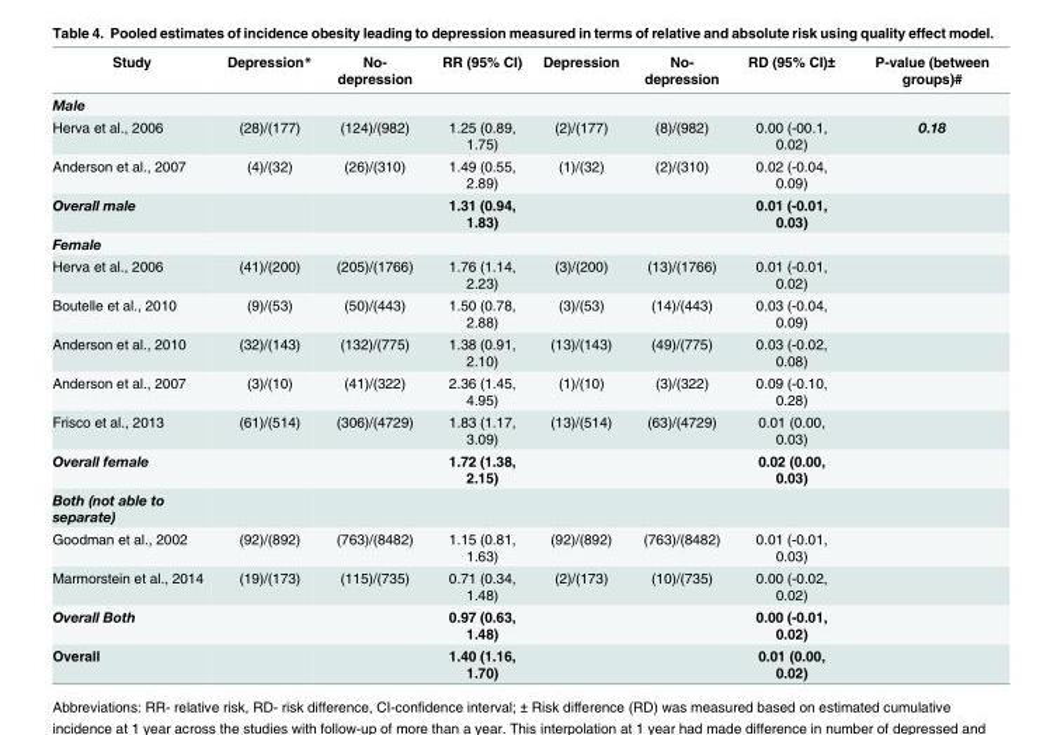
<table><thead><tr><td>Study</td><td>Depression*</td><td>No- depression</td><td>RR (95% CI)</td><td>Depression</td><td>No- depression</td><td>RD (95% CI)±</td><td>P-value (between groups)#</td></tr></thead><tbody><tr><td colspan="8">Male</td></tr><tr><td>Herva et al., 2006</td><td>(28)/(177)</td><td>(124)/(982)</td><td>1.25 (0.89, 1.75)</td><td>(2)/(177)</td><td>(8)/(982)</td><td>0.00 (-00.1, 0.02)</td><td>0.18</td></tr><tr><td>Anderson et al., 2007</td><td>(4)/(32)</td><td>(26)/(310)</td><td>1.49 (0.55, 2.89)</td><td>(1)/(32)</td><td>(2)/(310)</td><td>0.02 (-0.04, 0.09)</td><td></td></tr><tr><td>Overall male</td><td></td><td></td><td>1.31 (0.94, 1.83)</td><td></td><td></td><td>0.01 (-0.01, 0.03)</td><td></td></tr><tr><td colspan="8">Female</td></tr><tr><td>Herva et al., 2006</td><td>(41)/(200)</td><td>(205)/(1766)</td><td>1.76 (1.14, 2.23)</td><td>(3)/(200)</td><td>(13)/(1766)</td><td>0.01 (-0.01, 0.02)</td><td></td></tr><tr><td>Boutelle et al., 2010</td><td>(9)/(53)</td><td>(50)/(443)</td><td>1.50 (0.78, 2.88)</td><td>(3)/(53)</td><td>(14)/(443)</td><td>0.03 (-0.04, 0.09)</td><td></td></tr><tr><td>Anderson et al., 2010</td><td>(32)/(143)</td><td>(132)/(775)</td><td>1.38 (0.91, 2.10)</td><td>(13)/(143)</td><td>(49)/(775)</td><td>0.03 (-0.02, 0.08)</td><td></td></tr><tr><td>Anderson et al., 2007</td><td>(3)/(10)</td><td>(41)/(322)</td><td>2.36 (1.45, 4.95)</td><td>(1)/(10)</td><td>(3)/(322)</td><td>0.09 (-0.10, 0.28)</td><td></td></tr><tr><td>Frisco et al., 2013</td><td>(61)/(514)</td><td>(306)/(4729)</td><td>1.83 (1.17, 3.09)</td><td>(13)/(514)</td><td>(63)/(4729)</td><td>0.01 (0.00, 0.03)</td><td></td></tr><tr><td>Overall female</td><td></td><td></td><td>1.72 (1.38, 2.15)</td><td></td><td></td><td>0.02 (0.00, 0.03)</td><td></td></tr><tr><td colspan="8">Both (not able to separate)</td></tr><tr><td>Goodman et al., 2002</td><td>(92)/(892)</td><td>(763)/(8482)</td><td>1.15 (0.81, 1.63)</td><td>(92)/(892)</td><td>(763)/(8482)</td><td>0.01 (-0.01, 0.03)</td><td></td></tr><tr><td>Marmorstein et al., 2014</td><td>(19)/(173)</td><td>(115)/(735)</td><td>0.71 (0.34, 1.48)</td><td>(2)/(173)</td><td>(10)/(735)</td><td>0.00 (-0.02, 0.02)</td><td></td></tr><tr><td>Overall Both</td><td></td><td></td><td>0.97 (0.63, 1.48)</td><td></td><td></td><td>0.00 (-0.01, 0.02)</td><td></td></tr><tr><td>Overall</td><td></td><td></td><td>1.40 (1.16, 1.70)</td><td></td><td></td><td>0.01 (0.00, 0.02)</td><td></td></tr></tbody></table>